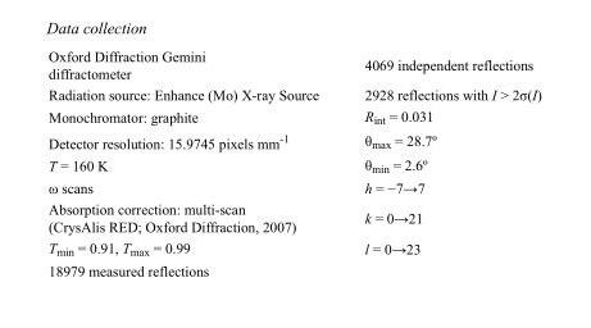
<table><tbody><tr><td>Oxford Diffraction Gemini diffractometer</td><td>4069 independent reflections</td></tr><tr><td>Radiation source: Enhance (Mo) X-ray Source</td><td>2928 reflections with I &gt; 2σ(I)</td></tr><tr><td>Monochromator: graphite</td><td>R<sub>int</sub> = 0.031</td></tr><tr><td>Detector resolution: 15.9745 pixels mm<sup>-1</sup></td><td>θ<sub>max</sub> = 28.7º</td></tr><tr><td>T = 160 K</td><td>θ<sub>min</sub> = 2.6º</td></tr><tr><td>ω scans</td><td>h = −7→7</td></tr><tr><td>Absorption correction: multi-scan (CrysAlis RED; Oxford Diffraction, 2007)</td><td>k = 0→21</td></tr><tr><td>T<sub>min</sub> = 0.91, T<sub>max</sub> = 0.99</td><td>l = 0→23</td></tr><tr><td>18979 measured reflections</td><td></td></tr></tbody></table>